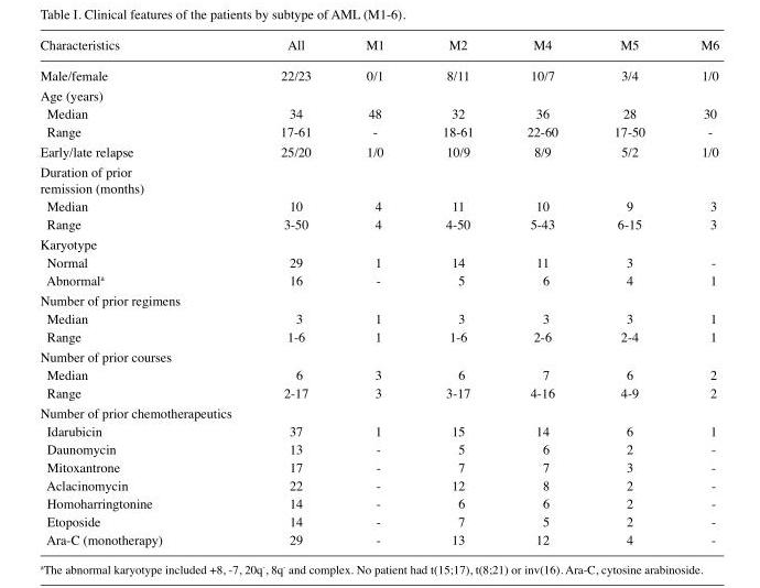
<table><thead><tr><td>Characteristics</td><td>All</td><td>M1</td><td>M2</td><td>M4</td><td>M5</td><td>M6</td></tr></thead><tbody><tr><td>Male/female</td><td>22/23</td><td>0/1</td><td>8/11</td><td>10/7</td><td>3/4</td><td>1/0</td></tr><tr><td colspan="7">Age (years)</td></tr><tr><td>Median</td><td>34</td><td>48</td><td>32</td><td>36</td><td>28</td><td>30</td></tr><tr><td>Range</td><td>17-61</td><td>-</td><td>18-61</td><td>22-60</td><td>17-50</td><td>-</td></tr><tr><td>Early/late relapse</td><td>25/20</td><td>1/0</td><td>10/9</td><td>8/9</td><td>5/2</td><td>1/0</td></tr><tr><td colspan="7">Duration of prior remission (months)</td></tr><tr><td>Median</td><td>10</td><td>4</td><td>11</td><td>10</td><td>9</td><td>3</td></tr><tr><td>Range</td><td>3-50</td><td>4</td><td>4-50</td><td>5-43</td><td>6-15</td><td>3</td></tr><tr><td colspan="7">Karyotype</td></tr><tr><td>Normal</td><td>29</td><td>1</td><td>14</td><td>11</td><td>3</td><td>-</td></tr><tr><td>Abnormal<sup>a</sup></td><td>16</td><td>-</td><td>5</td><td>6</td><td>4</td><td>1</td></tr><tr><td colspan="7">Number of prior regimens</td></tr><tr><td>Median</td><td>3</td><td>1</td><td>3</td><td>3</td><td>3</td><td>1</td></tr><tr><td>Range</td><td>1-6</td><td>1</td><td>1-6</td><td>2-6</td><td>2-4</td><td>1</td></tr><tr><td colspan="7">Number of prior courses</td></tr><tr><td>Median</td><td>6</td><td>3</td><td>6</td><td>7</td><td>6</td><td>2</td></tr><tr><td>Range</td><td>2-17</td><td>3</td><td>3-17</td><td>4-16</td><td>4-9</td><td>2</td></tr><tr><td colspan="7">Number of prior chemotherapeutics</td></tr><tr><td>Idarubicin</td><td>37</td><td>1</td><td>15</td><td>14</td><td>6</td><td>1</td></tr><tr><td>Daunomycin</td><td>13</td><td>-</td><td>5</td><td>6</td><td>2</td><td>-</td></tr><tr><td>Mitoxantrone</td><td>17</td><td>-</td><td>7</td><td>7</td><td>3</td><td>-</td></tr><tr><td>Aclacinomycin</td><td>22</td><td>-</td><td>12</td><td>8</td><td>2</td><td>-</td></tr><tr><td>Homoharringtonine</td><td>14</td><td>-</td><td>6</td><td>6</td><td>2</td><td>-</td></tr><tr><td>Etoposide</td><td>14</td><td>-</td><td>7</td><td>5</td><td>2</td><td>-</td></tr><tr><td>Ara-C (monotherapy)</td><td>29</td><td>-</td><td>13</td><td>12</td><td>4</td><td>-</td></tr></tbody></table>